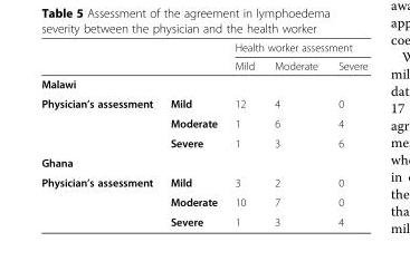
<table><thead><tr><td rowspan="2"></td><td rowspan="2"></td><td colspan="3">Health worker assessment</td></tr><tr><td>Mild</td><td>Moderate</td><td>Severe</td></tr></thead><tbody><tr><td colspan="5">Malawi</td></tr><tr><td rowspan="3">Physician’s assessment</td><td>Mild</td><td>12</td><td>4</td><td>0</td></tr><tr><td>Moderate</td><td>1</td><td>6</td><td>4</td></tr><tr><td>Severe</td><td>1</td><td>3</td><td>6</td></tr><tr><td colspan="5">Ghana</td></tr><tr><td rowspan="3">Physician’s assessment</td><td>Mild</td><td>3</td><td>2</td><td>0</td></tr><tr><td>Moderate</td><td>10</td><td>7</td><td>0</td></tr><tr><td>Severe</td><td>1</td><td>3</td><td>4</td></tr></tbody></table>